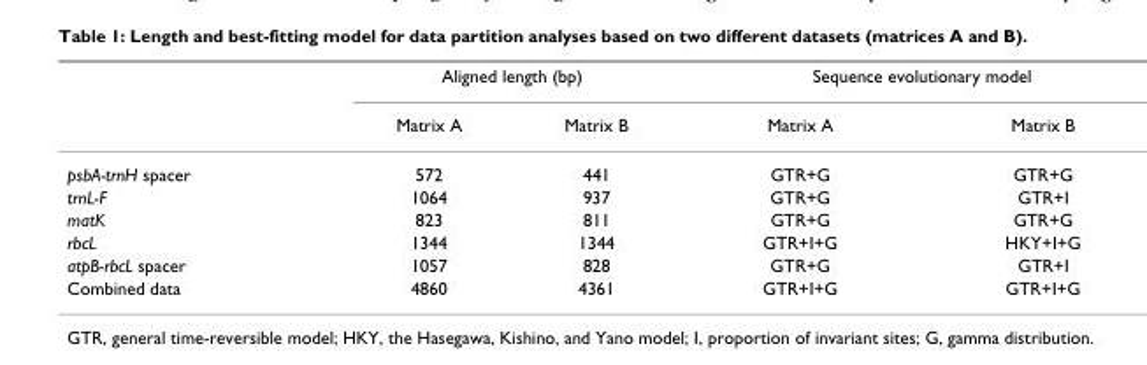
<table><thead><tr><td rowspan="2"></td><td colspan="2">Aligned length (bp)</td><td colspan="2">Sequence evolutionary model</td></tr><tr><td>Matrix A</td><td>Matrix B</td><td>Matrix A</td><td>Matrix B</td></tr></thead><tbody><tr><td>psbA-trnH spacer</td><td>572</td><td>441</td><td>GTR+G</td><td>GTR+G</td></tr><tr><td>trnL-F</td><td>1064</td><td>937</td><td>GTR+G</td><td>GTR+I</td></tr><tr><td>matK</td><td>823</td><td>811</td><td>GTR+G</td><td>GTR+G</td></tr><tr><td>rbcL</td><td>1344</td><td>1344</td><td>GTR+I+G</td><td>HKY+I+G</td></tr><tr><td>atpB-rbcL spacer</td><td>1057</td><td>828</td><td>GTR+G</td><td>GTR+I</td></tr><tr><td>Combined data</td><td>4860</td><td>4361</td><td>GTR+I+G</td><td>GTR+I+G</td></tr></tbody></table>